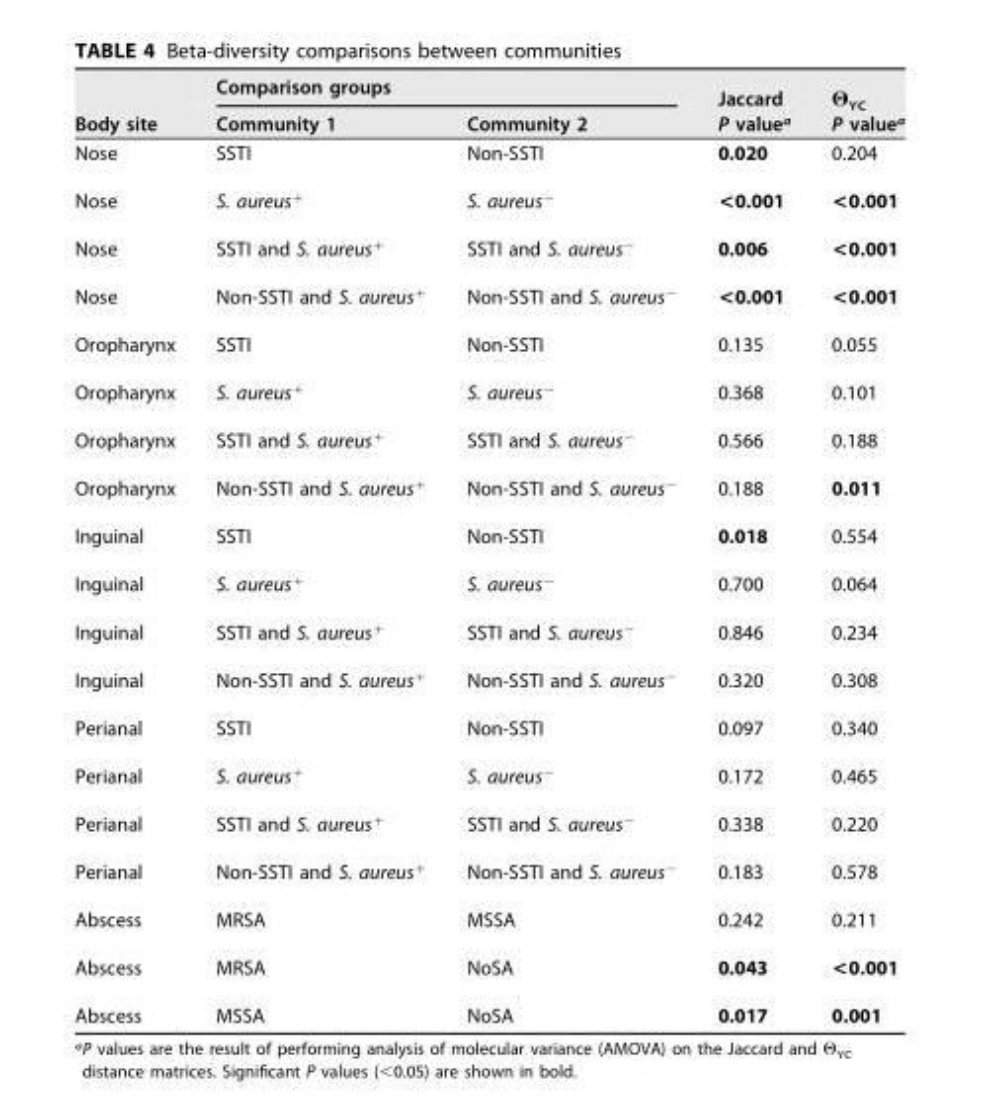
<table><thead><tr><td rowspan="2">Body site</td><td colspan="2">Comparison groups</td><td rowspan="2">Jaccard P value<sup>a</sup></td><td rowspan="2">Θ<sub>YC</sub> P value<sup>a</sup></td></tr><tr><td>Community 1</td><td>Community 2</td></tr></thead><tbody><tr><td>Nose</td><td>SSTI</td><td>Non-SSTI</td><td>0.020</td><td>0.204</td></tr><tr><td>Nose</td><td>S. aureus<sup>+</sup></td><td>S. aureus<sup>−</sup></td><td>&lt;0.001</td><td>&lt;0.001</td></tr><tr><td>Nose</td><td>SSTI and S. aureus<sup>+</sup></td><td>SSTI and S. aureus<sup>−</sup></td><td>0.006</td><td>&lt;0.001</td></tr><tr><td>Nose</td><td>Non-SSTI and S. aureus<sup>+</sup></td><td>Non-SSTI and S. aureus<sup>−</sup></td><td>&lt;0.001</td><td>&lt;0.001</td></tr><tr><td>Oropharynx</td><td>SSTI</td><td>Non-SSTI</td><td>0.135</td><td>0.055</td></tr><tr><td>Oropharynx</td><td>S. aureus<sup>+</sup></td><td>S. aureus<sup>−</sup></td><td>0.368</td><td>0.101</td></tr><tr><td>Oropharynx</td><td>SSTI and S. aureus<sup>+</sup></td><td>SSTI and S. aureus<sup>−</sup></td><td>0.566</td><td>0.188</td></tr><tr><td>Oropharynx</td><td>Non-SSTI and S. aureus<sup>+</sup></td><td>Non-SSTI and S. aureus<sup>−</sup></td><td>0.188</td><td>0.011</td></tr><tr><td>Inguinal</td><td>SSTI</td><td>Non-SSTI</td><td>0.018</td><td>0.554</td></tr><tr><td>Inguinal</td><td>S. aureus<sup>+</sup></td><td>S. aureus<sup>−</sup></td><td>0.700</td><td>0.064</td></tr><tr><td>Inguinal</td><td>SSTI and S. aureus<sup>+</sup></td><td>SSTI and S. aureus<sup>−</sup></td><td>0.846</td><td>0.234</td></tr><tr><td>Inguinal</td><td>Non-SSTI and S. aureus<sup>+</sup></td><td>Non-SSTI and S. aureus<sup>−</sup></td><td>0.320</td><td>0.308</td></tr><tr><td>Perianal</td><td>SSTI</td><td>Non-SSTI</td><td>0.097</td><td>0.340</td></tr><tr><td>Perianal</td><td>S. aureus<sup>+</sup></td><td>S. aureus<sup>−</sup></td><td>0.172</td><td>0.465</td></tr><tr><td>Perianal</td><td>SSTI and S. aureus<sup>+</sup></td><td>SSTI and S. aureus<sup>−</sup></td><td>0.338</td><td>0.220</td></tr><tr><td>Perianal</td><td>Non-SSTI and S. aureus<sup>+</sup></td><td>Non-SSTI and S. aureus<sup>−</sup></td><td>0.183</td><td>0.578</td></tr><tr><td>Abscess</td><td>MRSA</td><td>MSSA</td><td>0.242</td><td>0.211</td></tr><tr><td>Abscess</td><td>MRSA</td><td>NoSA</td><td>0.043</td><td>&lt;0.001</td></tr><tr><td>Abscess</td><td>MSSA</td><td>NoSA</td><td>0.017</td><td>0.001</td></tr></tbody></table>